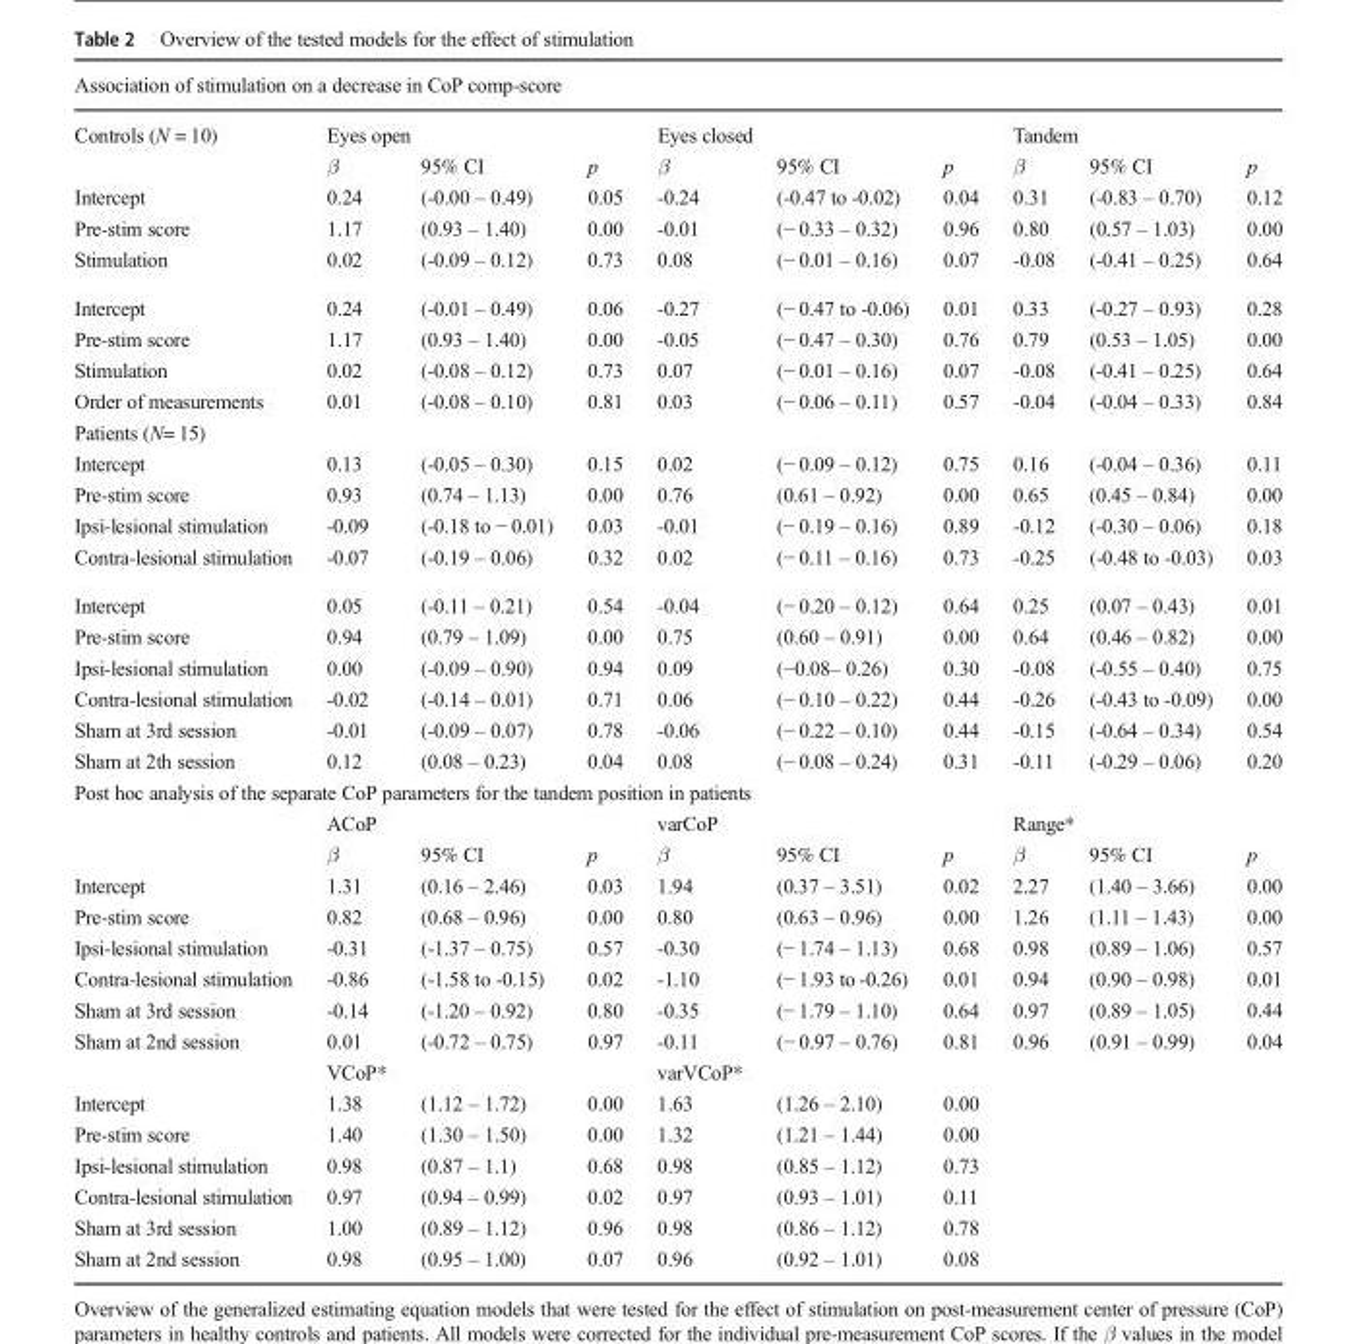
<table><thead><tr><td colspan="10">Association of stimulation on a decrease in CoP comp-score</td></tr><tr><td rowspan="2">Controls (N = 10)</td><td colspan="3">Eyes open</td><td colspan="3">Eyes closed</td><td colspan="3">Tandem</td></tr><tr><td>β</td><td>95% CI</td><td>p</td><td>β</td><td>95% CI</td><td>p</td><td>β</td><td>95% CI</td><td>p</td></tr></thead><tbody><tr><td>Intercept</td><td>0.24</td><td>(-0.00 – 0.49)</td><td>0.05</td><td>-0.24</td><td>(-0.47 to -0.02)</td><td>0.04</td><td>0.31</td><td>(-0.83 – 0.70)</td><td>0.12</td></tr><tr><td>Pre-stim score</td><td>1.17</td><td>(0.93 – 1.40)</td><td>0.00</td><td>-0.01</td><td>(− 0.33 – 0.32)</td><td>0.96</td><td>0.80</td><td>(0.57 – 1.03)</td><td>0.00</td></tr><tr><td>Stimulation</td><td>0.02</td><td>(-0.09 – 0.12)</td><td>0.73</td><td>0.08</td><td>(− 0.01 – 0.16)</td><td>0.07</td><td>-0.08</td><td>(-0.41 – 0.25)</td><td>0.64</td></tr><tr><td>Intercept</td><td>0.24</td><td>(-0.01 – 0.49)</td><td>0.06</td><td>-0.27</td><td>(− 0.47 to -0.06)</td><td>0.01</td><td>0.33</td><td>(-0.27 – 0.93)</td><td>0.28</td></tr><tr><td>Pre-stim score</td><td>1.17</td><td>(0.93 – 1.40)</td><td>0.00</td><td>-0.05</td><td>(− 0.47 – 0.30)</td><td>0.76</td><td>0.79</td><td>(0.53 – 1.05)</td><td>0.00</td></tr><tr><td>Stimulation</td><td>0.02</td><td>(-0.08 – 0.12)</td><td>0.73</td><td>0.07</td><td>(− 0.01 – 0.16)</td><td>0.07</td><td>-0.08</td><td>(-0.41 – 0.25)</td><td>0.64</td></tr><tr><td>Order of measurements</td><td>0.01</td><td>(-0.08 – 0.10)</td><td>0.81</td><td>0.03</td><td>(− 0.06 – 0.11)</td><td>0.57</td><td>-0.04</td><td>(-0.04 – 0.33)</td><td>0.84</td></tr><tr><td colspan="10">Patients (N= 15)</td></tr><tr><td>Intercept</td><td>0.13</td><td>(-0.05 – 0.30)</td><td>0.15</td><td>0.02</td><td>(− 0.09 – 0.12)</td><td>0.75</td><td>0.16</td><td>(-0.04 – 0.36)</td><td>0.11</td></tr><tr><td>Pre-stim score</td><td>0.93</td><td>(0.74 – 1.13)</td><td>0.00</td><td>0.76</td><td>(0.61 – 0.92)</td><td>0.00</td><td>0.65</td><td>(0.45 – 0.84)</td><td>0.00</td></tr><tr><td>Ipsi-lesional stimulation</td><td>-0.09</td><td>(-0.18 to − 0.01)</td><td>0.03</td><td>-0.01</td><td>(− 0.19 – 0.16)</td><td>0.89</td><td>-0.12</td><td>(-0.30 – 0.06)</td><td>0.18</td></tr><tr><td>Contra-lesional stimulation</td><td>-0.07</td><td>(-0.19 – 0.06)</td><td>0.32</td><td>0.02</td><td>(− 0.11 – 0.16)</td><td>0.73</td><td>-0.25</td><td>(-0.48 to -0.03)</td><td>0.03</td></tr><tr><td>Intercept</td><td>0.05</td><td>(-0.11 – 0.21)</td><td>0.54</td><td>-0.04</td><td>(− 0.20 – 0.12)</td><td>0.64</td><td>0.25</td><td>(0.07 – 0.43)</td><td>0.01</td></tr><tr><td>Pre-stim score</td><td>0.94</td><td>(0.79 – 1.09)</td><td>0.00</td><td>0.75</td><td>(0.60 – 0.91)</td><td>0.00</td><td>0.64</td><td>(0.46 – 0.82)</td><td>0.00</td></tr><tr><td>Ipsi-lesional stimulation</td><td>0.00</td><td>(-0.09 – 0.90)</td><td>0.94</td><td>0.09</td><td>(−0.08– 0.26)</td><td>0.30</td><td>-0.08</td><td>(-0.55 – 0.40)</td><td>0.75</td></tr><tr><td>Contra-lesional stimulation</td><td>-0.02</td><td>(-0.14 – 0.01)</td><td>0.71</td><td>0.06</td><td>(− 0.10 – 0.22)</td><td>0.44</td><td>-0.26</td><td>(-0.43 to -0.09)</td><td>0.00</td></tr><tr><td>Sham at 3rd session</td><td>-0.01</td><td>(-0.09 – 0.07)</td><td>0.78</td><td>-0.06</td><td>(− 0.22 – 0.10)</td><td>0.44</td><td>-0.15</td><td>(-0.64 – 0.34)</td><td>0.54</td></tr><tr><td>Sham at 2th session</td><td>0.12</td><td>(0.08 – 0.23)</td><td>0.04</td><td>0.08</td><td>(− 0.08 – 0.24)</td><td>0.31</td><td>-0.11</td><td>(-0.29 – 0.06)</td><td>0.20</td></tr><tr><td colspan="10">Post hoc analysis of the separate CoP parameters for the tandem position in patients</td></tr><tr><td></td><td colspan="3">ACoP</td><td colspan="3">varCoP</td><td colspan="3">Range*</td></tr><tr><td></td><td>β</td><td>95% CI</td><td>p</td><td>β</td><td>95% CI</td><td>p</td><td>β</td><td>95% CI</td><td>p</td></tr><tr><td>Intercept</td><td>1.31</td><td>(0.16 – 2.46)</td><td>0.03</td><td>1.94</td><td>(0.37 – 3.51)</td><td>0.02</td><td>2.27</td><td>(1.40 – 3.66)</td><td>0.00</td></tr><tr><td>Pre-stim score</td><td>0.82</td><td>(0.68 – 0.96)</td><td>0.00</td><td>0.80</td><td>(0.63 – 0.96)</td><td>0.00</td><td>1.26</td><td>(1.11 – 1.43)</td><td>0.00</td></tr><tr><td>Ipsi-lesional stimulation</td><td>-0.31</td><td>(-1.37 – 0.75)</td><td>0.57</td><td>-0.30</td><td>(− 1.74 – 1.13)</td><td>0.68</td><td>0.98</td><td>(0.89 – 1.06)</td><td>0.57</td></tr><tr><td>Contra-lesional stimulation</td><td>-0.86</td><td>(-1.58 to -0.15)</td><td>0.02</td><td>-1.10</td><td>(− 1.93 to -0.26)</td><td>0.01</td><td>0.94</td><td>(0.90 – 0.98)</td><td>0.01</td></tr><tr><td>Sham at 3rd session</td><td>-0.14</td><td>(-1.20 – 0.92)</td><td>0.80</td><td>-0.35</td><td>(− 1.79 – 1.10)</td><td>0.64</td><td>0.97</td><td>(0.89 – 1.05)</td><td>0.44</td></tr><tr><td rowspan="2">Sham at 2nd session</td><td>0.01</td><td>(-0.72 – 0.75)</td><td>0.97</td><td>-0.11</td><td>(− 0.97 – 0.76)</td><td>0.81</td><td>0.96</td><td>(0.91 – 0.99)</td><td>0.04</td></tr><tr><td>VCoP*</td><td></td><td></td><td>varVCoP*</td><td></td><td></td><td></td><td></td><td></td></tr><tr><td>Intercept</td><td>1.38</td><td>(1.12 – 1.72)</td><td>0.00</td><td>1.63</td><td>(1.26 – 2.10)</td><td>0.00</td><td></td><td></td><td></td></tr><tr><td>Pre-stim score</td><td>1.40</td><td>(1.30 – 1.50)</td><td>0.00</td><td>1.32</td><td>(1.21 – 1.44)</td><td>0.00</td><td></td><td></td><td></td></tr><tr><td>Ipsi-lesional stimulation</td><td>0.98</td><td>(0.87 – 1.1)</td><td>0.68</td><td>0.98</td><td>(0.85 – 1.12)</td><td>0.73</td><td></td><td></td><td></td></tr><tr><td>Contra-lesional stimulation</td><td>0.97</td><td>(0.94 – 0.99)</td><td>0.02</td><td>0.97</td><td>(0.93 – 1.01)</td><td>0.11</td><td></td><td></td><td></td></tr><tr><td>Sham at 3rd session</td><td>1.00</td><td>(0.89 – 1.12)</td><td>0.96</td><td>0.98</td><td>(0.86 – 1.12)</td><td>0.78</td><td></td><td></td><td></td></tr><tr><td>Sham at 2nd session</td><td>0.98</td><td>(0.95 – 1.00)</td><td>0.07</td><td>0.96</td><td>(0.92 – 1.01)</td><td>0.08</td><td></td><td></td><td></td></tr></tbody></table>